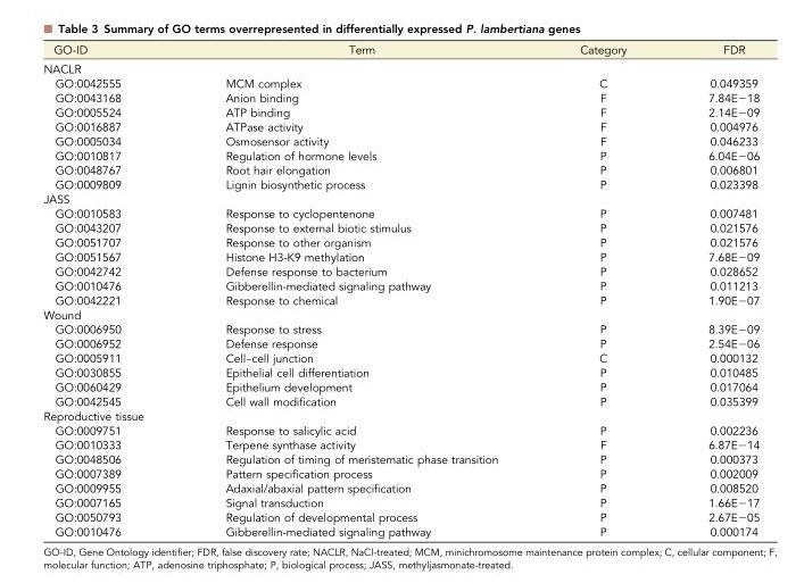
<table><thead><tr><td>GO-ID</td><td>Term</td><td>Category</td><td>FDR</td></tr></thead><tbody><tr><td colspan="4">NACLR</td></tr><tr><td>GO:0042555</td><td>MCM complex</td><td>C</td><td>0.049359</td></tr><tr><td>GO:0043168</td><td>Anion binding</td><td>F</td><td>7.84E−18</td></tr><tr><td>GO:0005524</td><td>ATP binding</td><td>F</td><td>2.14E−09</td></tr><tr><td>GO:0016887</td><td>ATPase activity</td><td>F</td><td>0.004976</td></tr><tr><td>GO:0005034</td><td>Osmosensor activity</td><td>F</td><td>0.046233</td></tr><tr><td>GO:0010817</td><td>Regulation of hormone levels</td><td>P</td><td>6.04E−06</td></tr><tr><td>GO:0048767</td><td>Root hair elongation</td><td>P</td><td>0.006801</td></tr><tr><td>GO:0009809</td><td>Lignin biosynthetic process</td><td>P</td><td>0.023398</td></tr><tr><td colspan="4">JASS</td></tr><tr><td>GO:0010583</td><td>Response to cyclopentenone</td><td>P</td><td>0.007481</td></tr><tr><td>GO:0043207</td><td>Response to external biotic stimulus</td><td>P</td><td>0.021576</td></tr><tr><td>GO:0051707</td><td>Response to other organism</td><td>P</td><td>0.021576</td></tr><tr><td>GO:0051567</td><td>Histone H3-K9 methylation</td><td>P</td><td>7.68E−09</td></tr><tr><td>GO:0042742</td><td>Defense response to bacterium</td><td>P</td><td>0.028652</td></tr><tr><td>GO:0010476</td><td>Gibberellin-mediated signaling pathway</td><td>P</td><td>0.011213</td></tr><tr><td>GO:0042221</td><td>Response to chemical</td><td>P</td><td>1.90E−07</td></tr><tr><td colspan="4">Wound</td></tr><tr><td>GO:0006950</td><td>Response to stress</td><td>P</td><td>8.39E−09</td></tr><tr><td>GO:0006952</td><td>Defense response</td><td>P</td><td>2.54E−06</td></tr><tr><td>GO:0005911</td><td>Cell–cell junction</td><td>C</td><td>0.000132</td></tr><tr><td>GO:0030855</td><td>Epithelial cell differentiation</td><td>P</td><td>0.010485</td></tr><tr><td>GO:0060429</td><td>Epithelium development</td><td>P</td><td>0.017064</td></tr><tr><td>GO:0042545</td><td>Cell wall modification</td><td>P</td><td>0.035399</td></tr><tr><td colspan="4">Reproductive tissue</td></tr><tr><td>GO:0009751</td><td>Response to salicylic acid</td><td>P</td><td>0.002236</td></tr><tr><td>GO:0010333</td><td>Terpene synthase activity</td><td>F</td><td>6.87E−14</td></tr><tr><td>GO:0048506</td><td>Regulation of timing of meristematic phase transition</td><td>P</td><td>0.000373</td></tr><tr><td>GO:0007389</td><td>Pattern specification process</td><td>P</td><td>0.002009</td></tr><tr><td>GO:0009955</td><td>Adaxial/abaxial pattern specification</td><td>P</td><td>0.008520</td></tr><tr><td>GO:0007165</td><td>Signal transduction</td><td>P</td><td>1.66E−17</td></tr><tr><td>GO:0050793</td><td>Regulation of developmental process</td><td>P</td><td>2.67E−05</td></tr><tr><td>GO:0010476</td><td>Gibberellin-mediated signaling pathway</td><td>P</td><td>0.000174</td></tr></tbody></table>